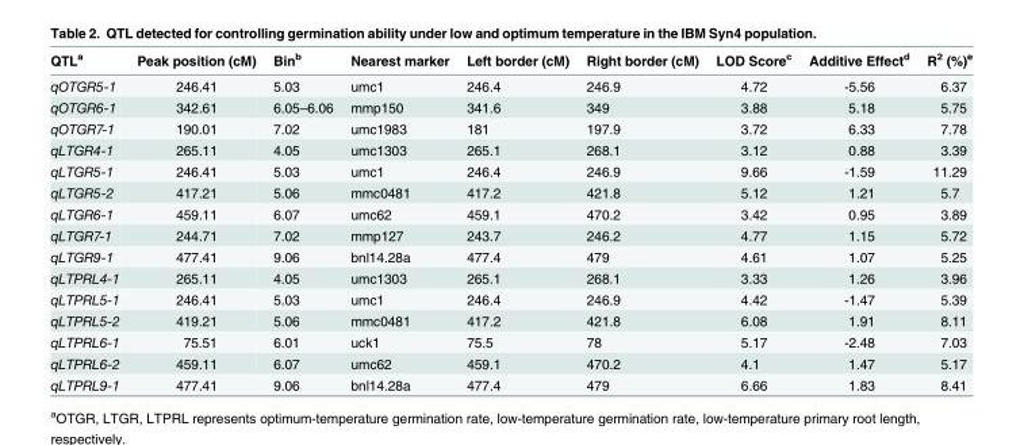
<table><thead><tr><td>QTL<sup>a</sup></td><td>Peak position (cM)</td><td>Bin<sup>b</sup></td><td>Nearest marker</td><td>Left border (cM)</td><td>Right border (cM)</td><td>LOD Score<sup>c</sup></td><td>Additive Effect<sup>d</sup></td><td>R<sup>2</sup> (%)<sup>e</sup></td></tr></thead><tbody><tr><td>qOTGR5-1</td><td>246.41</td><td>5.03</td><td>umc1</td><td>246.4</td><td>246.9</td><td>4.72</td><td>-5.56</td><td>6.37</td></tr><tr><td>qOTGR6-1</td><td>342.61</td><td>6.05–6.06</td><td>mmp150</td><td>341.6</td><td>349</td><td>3.88</td><td>5.18</td><td>5.75</td></tr><tr><td>qOTGR7-1</td><td>190.01</td><td>7.02</td><td>umc1983</td><td>181</td><td>197.9</td><td>3.72</td><td>6.33</td><td>7.78</td></tr><tr><td>qLTGR4-1</td><td>265.11</td><td>4.05</td><td>umc1303</td><td>265.1</td><td>268.1</td><td>3.12</td><td>0.88</td><td>3.39</td></tr><tr><td>qLTGR5-1</td><td>246.41</td><td>5.03</td><td>umc1</td><td>246.4</td><td>246.9</td><td>9.66</td><td>-1.59</td><td>11.29</td></tr><tr><td>qLTGR5-2</td><td>417.21</td><td>5.06</td><td>mmc0481</td><td>417.2</td><td>421.8</td><td>5.12</td><td>1.21</td><td>5.7</td></tr><tr><td>qLTGR6-1</td><td>459.11</td><td>6.07</td><td>umc62</td><td>459.1</td><td>470.2</td><td>3.42</td><td>0.95</td><td>3.89</td></tr><tr><td>qLTGR7-1</td><td>244.71</td><td>7.02</td><td>mmp127</td><td>243.7</td><td>246.2</td><td>4.77</td><td>1.15</td><td>5.72</td></tr><tr><td>qLTGR9-1</td><td>477.41</td><td>9.06</td><td>bnl14.28a</td><td>477.4</td><td>479</td><td>4.61</td><td>1.07</td><td>5.25</td></tr><tr><td>qLTPRL4-1</td><td>265.11</td><td>4.05</td><td>umc1303</td><td>265.1</td><td>268.1</td><td>3.33</td><td>1.26</td><td>3.96</td></tr><tr><td>qLTPRL5-1</td><td>246.41</td><td>5.03</td><td>umc1</td><td>246.4</td><td>246.9</td><td>4.42</td><td>-1.47</td><td>5.39</td></tr><tr><td>qLTPRL5-2</td><td>419.21</td><td>5.06</td><td>mmc0481</td><td>417.2</td><td>421.8</td><td>6.08</td><td>1.91</td><td>8.11</td></tr><tr><td>qLTPRL6-1</td><td>75.51</td><td>6.01</td><td>uck1</td><td>75.5</td><td>78</td><td>5.17</td><td>-2.48</td><td>7.03</td></tr><tr><td>qLTPRL6-2</td><td>459.11</td><td>6.07</td><td>umc62</td><td>459.1</td><td>470.2</td><td>4.1</td><td>1.47</td><td>5.17</td></tr><tr><td>qLTPRL9-1</td><td>477.41</td><td>9.06</td><td>bnl14.28a</td><td>477.4</td><td>479</td><td>6.66</td><td>1.83</td><td>8.41</td></tr></tbody></table>